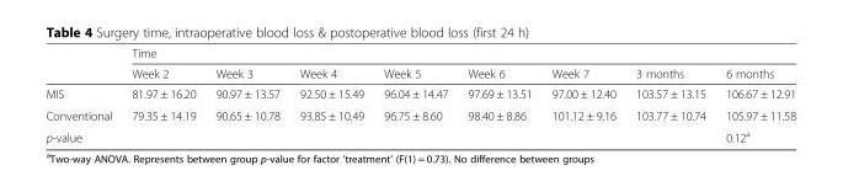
<table><thead><tr><td rowspan="2"></td><td colspan="8">Time</td></tr><tr><td>Week 2</td><td>Week 3</td><td>Week 4</td><td>Week 5</td><td>Week 6</td><td>Week 7</td><td>3 months</td><td>6 months</td></tr></thead><tbody><tr><td>MIS</td><td>81.97 ± 16.20</td><td>90.97 ± 13.57</td><td>92.50 ± 15.49</td><td>96.04 ± 14.47</td><td>97.69 ± 13.51</td><td>97.00 ± 12.40</td><td>103.57 ± 13.15</td><td>106.67 ± 12.91</td></tr><tr><td>Conventional</td><td>79.35 ± 14.19</td><td>90.65 ± 10.78</td><td>93.85 ± 10.49</td><td>96.75 ± 8.60</td><td>98.40 ± 8.86</td><td>101.12 ± 9.16</td><td>103.77 ± 10.74</td><td>105.97 ± 11.58</td></tr><tr><td>p-value</td><td></td><td></td><td></td><td></td><td></td><td></td><td></td><td>0.12<sup>a</sup></td></tr></tbody></table>